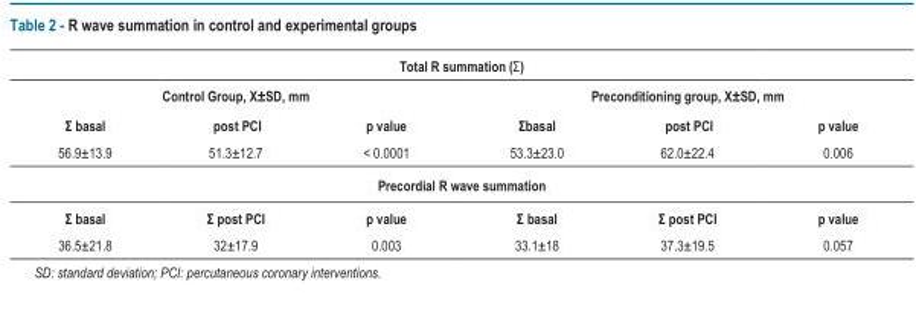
<table><thead><tr><td colspan="6">Total R summation (Σ)</td></tr><tr><td colspan="3">Control Group, X±SD, mm</td><td colspan="3">Preconditioning group, X±SD, mm</td></tr><tr><td>Σ basal</td><td>post PCI</td><td>p value</td><td>Σbasal</td><td>post PCI</td><td>p value</td></tr></thead><tbody><tr><td>56.9±13.9</td><td>51.3±12.7</td><td>&lt; 0.0001</td><td>53.3±23.0</td><td>62.0±22.4</td><td>0.006</td></tr><tr><td colspan="6">Precordial R wave summation</td></tr><tr><td>Σ basal</td><td>Σ post PCI</td><td>p value</td><td>Σ basal</td><td>Σ post PCI</td><td>p value</td></tr><tr><td>36.5±21.8</td><td>32±17.9</td><td>0.003</td><td>33.1±18</td><td>37.3±19.5</td><td>0.057</td></tr></tbody></table>